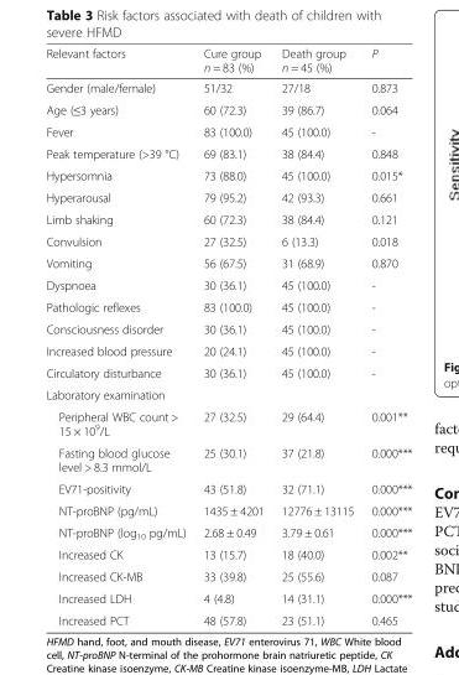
<table><thead><tr><td>Relevant factors</td><td>Cure group n = 83 (%)</td><td>Death group n = 45 (%)</td><td>P</td></tr></thead><tbody><tr><td>Gender (male/female)</td><td>51/32</td><td>27/18</td><td>0.873</td></tr><tr><td>Age (≤3 years)</td><td>60 (72.3)</td><td>39 (86.7)</td><td>0.064</td></tr><tr><td>Fever</td><td>83 (100.0)</td><td>45 (100.0)</td><td>-</td></tr><tr><td>Peak temperature (&gt;39 °C)</td><td>69 (83.1)</td><td>38 (84.4)</td><td>0.848</td></tr><tr><td>Hypersomnia</td><td>73 (88.0)</td><td>45 (100.0)</td><td>0.015*</td></tr><tr><td>Hyperarousal</td><td>79 (95.2)</td><td>42 (93.3)</td><td>0.661</td></tr><tr><td>Limb shaking</td><td>60 (72.3)</td><td>38 (84.4)</td><td>0.121</td></tr><tr><td>Convulsion</td><td>27 (32.5)</td><td>6 (13.3)</td><td>0.018</td></tr><tr><td>Vomiting</td><td>56 (67.5)</td><td>31 (68.9)</td><td>0.870</td></tr><tr><td>Dyspnoea</td><td>30 (36.1)</td><td>45 (100.0)</td><td>-</td></tr><tr><td>Pathologic reflexes</td><td>83 (100.0)</td><td>45 (100.0)</td><td>-</td></tr><tr><td>Consciousness disorder</td><td>30 (36.1)</td><td>45 (100.0)</td><td>-</td></tr><tr><td>Increased blood pressure</td><td>20 (24.1)</td><td>45 (100.0)</td><td>-</td></tr><tr><td>Circulatory disturbance</td><td>30 (36.1)</td><td>45 (100.0)</td><td>-</td></tr><tr><td colspan="4">Laboratory examination</td></tr><tr><td>Peripheral WBC count &gt; 15 × 10<sup>9</sup>/L</td><td>27 (32.5)</td><td>29 (64.4)</td><td>0.001**</td></tr><tr><td>Fasting blood glucose level &gt; 8.3 mmol/L</td><td>25 (30.1)</td><td>37 (21.8)</td><td>0.000***</td></tr><tr><td>EV71-positivity</td><td>43 (51.8)</td><td>32 (71.1)</td><td>0.000***</td></tr><tr><td>NT-proBNP (pg/mL)</td><td>1435 ± 4201</td><td>12776 ± 13115</td><td>0.000***</td></tr><tr><td>NT-proBNP (log<sub>10</sub> pg/mL)</td><td>2.68 ± 0.49</td><td>3.79 ± 0.61</td><td>0.000***</td></tr><tr><td>Increased CK</td><td>13 (15.7)</td><td>18 (40.0)</td><td>0.002**</td></tr><tr><td>Increased CK-MB</td><td>33 (39.8)</td><td>25 (55.6)</td><td>0.087</td></tr><tr><td>Increased LDH</td><td>4 (4.8)</td><td>14 (31.1)</td><td>0.000***</td></tr><tr><td>Increased PCT</td><td>48 (57.8)</td><td>23 (51.1)</td><td>0.465</td></tr></tbody></table>